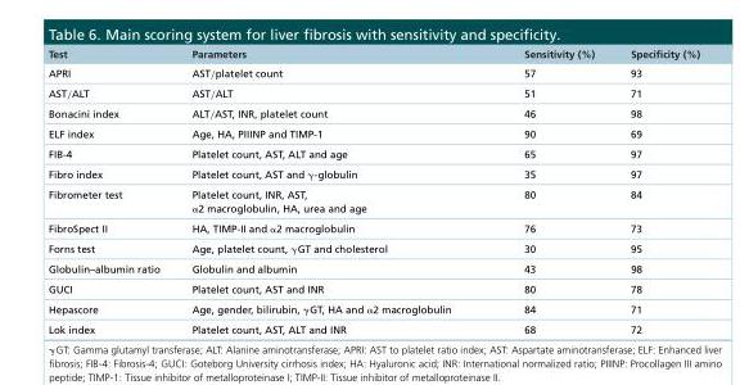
<table><thead><tr><td>Test</td><td>Parameters</td><td>Sensitivity (%)</td><td>Specificity (%)</td></tr></thead><tbody><tr><td>APRI</td><td>AST/platelet count</td><td>57</td><td>93</td></tr><tr><td>AST/ALT</td><td>AST/ALT</td><td>51</td><td>71</td></tr><tr><td>Bonacini index</td><td>ALT/AST, INR, platelet count</td><td>46</td><td>98</td></tr><tr><td>ELF index</td><td>Age, HA, PIIINP and TIMP-1</td><td>90</td><td>69</td></tr><tr><td>FIB-4</td><td>Platelet count, AST, ALT and age</td><td>65</td><td>97</td></tr><tr><td>Fibro index</td><td>Platelet count, AST and γ-globulin</td><td>35</td><td>97</td></tr><tr><td>Fibrometer test</td><td>Platelet count, INR, AST, α2 macroglobulin, HA, urea and age</td><td>80</td><td>84</td></tr><tr><td>FibroSpect II</td><td>HA, TIMP-II and α2 macroglobulin</td><td>76</td><td>73</td></tr><tr><td>Forns test</td><td>Age, platelet count, γGT and cholesterol</td><td>30</td><td>95</td></tr><tr><td>Globulin–albumin ratio</td><td>Globulin and albumin</td><td>43</td><td>98</td></tr><tr><td>GUCI</td><td>Platelet count, AST and INR</td><td>80</td><td>78</td></tr><tr><td>Hepascore</td><td>Age, gender, bilirubin, γGT, HA and α2 macroglobulin</td><td>84</td><td>71</td></tr><tr><td>Lok index</td><td>Platelet count, AST, ALT and INR</td><td>68</td><td>72</td></tr></tbody></table>